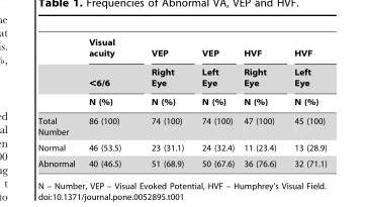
<table><thead><tr><td rowspan="3"></td><td rowspan="3">Visual acuity &lt;6/6 N (%)</td><td rowspan="3">VEP Right Eye N (%)</td><td rowspan="3">VEP Left Eye N (%)</td><td rowspan="3">HVF Right Eye N (%)</td><td rowspan="3">HVF Left Eye N (%)</td></tr><tr></tr><tr></tr></thead><tbody><tr><td>Total Number</td><td>86 (100)</td><td>74 (100)</td><td>74 (100)</td><td>47 (100)</td><td>45 (100)</td></tr><tr><td>Normal</td><td>46 (53.5)</td><td>23 (31.1)</td><td>24 (32.4)</td><td>11 (23.4)</td><td>13 (28.9)</td></tr><tr><td>Abnormal</td><td>40 (46.5)</td><td>51 (68.9)</td><td>50 (67.6)</td><td>36 (76.6)</td><td>32 (71.1)</td></tr></tbody></table>